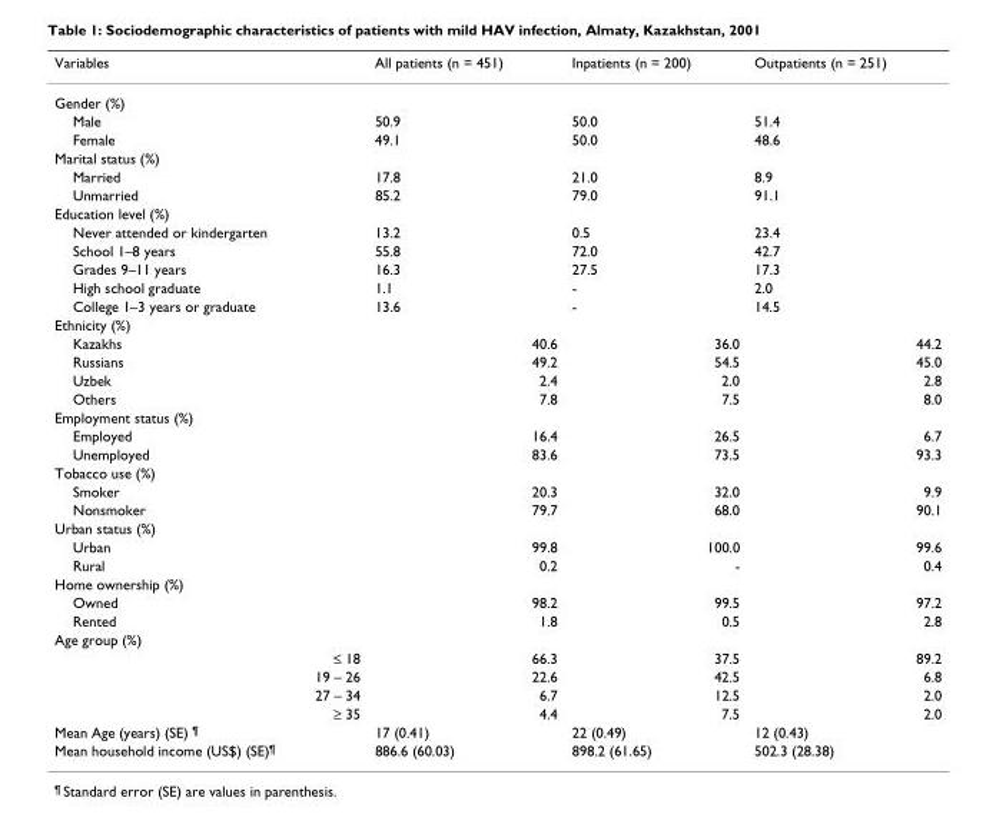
<table><thead><tr><td>Variables</td><td>All patients (n = 451)</td><td>Inpatients (n = 200)</td><td>Outpatients (n = 251)</td></tr></thead><tbody><tr><td colspan="4">Gender (%)</td></tr><tr><td>Male</td><td>50.9</td><td>50.0</td><td>51.4</td></tr><tr><td>Female</td><td>49.1</td><td>50.0</td><td>48.6</td></tr><tr><td colspan="4">Marital status (%)</td></tr><tr><td>Married</td><td>17.8</td><td>21.0</td><td>8.9</td></tr><tr><td>Unmarried</td><td>85.2</td><td>79.0</td><td>91.1</td></tr><tr><td colspan="4">Education level (%)</td></tr><tr><td>Never attended or kindergarten</td><td>13.2</td><td>0.5</td><td>23.4</td></tr><tr><td>School 1–8 years</td><td>55.8</td><td>72.0</td><td>42.7</td></tr><tr><td>Grades 9–11 years</td><td>16.3</td><td>27.5</td><td>17.3</td></tr><tr><td>High school graduate</td><td>1.1</td><td>-</td><td>2.0</td></tr><tr><td>College 1–3 years or graduate</td><td>13.6</td><td>-</td><td>14.5</td></tr><tr><td colspan="4">Ethnicity (%)</td></tr><tr><td>Kazakhs</td><td>40.6</td><td>36.0</td><td>44.2</td></tr><tr><td>Russians</td><td>49.2</td><td>54.5</td><td>45.0</td></tr><tr><td>Uzbek</td><td>2.4</td><td>2.0</td><td>2.8</td></tr><tr><td>Others</td><td>7.8</td><td>7.5</td><td>8.0</td></tr><tr><td colspan="4">Employment status (%)</td></tr><tr><td>Employed</td><td>16.4</td><td>26.5</td><td>6.7</td></tr><tr><td>Unemployed</td><td>83.6</td><td>73.5</td><td>93.3</td></tr><tr><td colspan="4">Tobacco use (%)</td></tr><tr><td>Smoker</td><td>20.3</td><td>32.0</td><td>9.9</td></tr><tr><td>Nonsmoker</td><td>79.7</td><td>68.0</td><td>90.1</td></tr><tr><td colspan="4">Urban status (%)</td></tr><tr><td>Urban</td><td>99.8</td><td>100.0</td><td>99.6</td></tr><tr><td>Rural</td><td>0.2</td><td>-</td><td>0.4</td></tr><tr><td colspan="4">Home ownership (%)</td></tr><tr><td>Owned</td><td>98.2</td><td>99.5</td><td>97.2</td></tr><tr><td>Rented</td><td>1.8</td><td>0.5</td><td>2.8</td></tr><tr><td colspan="4">Age group (%)</td></tr><tr><td>≤ 18</td><td>66.3</td><td>37.5</td><td>89.2</td></tr><tr><td>19 – 26</td><td>22.6</td><td>42.5</td><td>6.8</td></tr><tr><td>27 – 34</td><td>6.7</td><td>12.5</td><td>2.0</td></tr><tr><td>≥ 35</td><td>4.4</td><td>7.5</td><td>2.0</td></tr><tr><td>Mean Age (years) (SE) <sup>¶</sup></td><td>17 (0.41)</td><td>22 (0.49)</td><td>12 (0.43)</td></tr><tr><td>Mean household income (US$) (SE)<sup>¶</sup></td><td>886.6 (60.03)</td><td>898.2 (61.65)</td><td>502.3 (28.38)</td></tr></tbody></table>